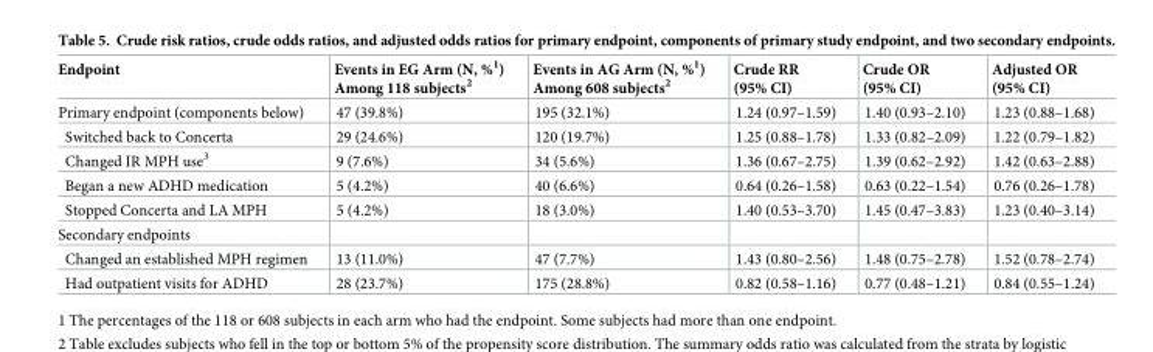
<table><thead><tr><td>Endpoint</td><td>Events in EG Arm (N, %<sup>1</sup>) Among 118 subjects<sup>2</sup></td><td>Events in AG Arm (N, %<sup>1</sup>) Among 608 subjects<sup>2</sup></td><td>Crude RR (95% CI)</td><td>Crude OR (95% CI)</td><td>Adjusted OR (95% CI)</td></tr></thead><tbody><tr><td>Primary endpoint (components below)</td><td>47 (39.8%)</td><td>195 (32.1%)</td><td>1.24 (0.97–1.59)</td><td>1.40 (0.93–2.10)</td><td>1.23 (0.88–1.68)</td></tr><tr><td>Switched back to Concerta</td><td>29 (24.6%)</td><td>120 (19.7%)</td><td>1.25 (0.88–1.78)</td><td>1.33 (0.82–2.09)</td><td>1.22 (0.79–1.82)</td></tr><tr><td>Changed IR MPH use<sup>3</sup></td><td>9 (7.6%)</td><td>34 (5.6%)</td><td>1.36 (0.67–2.75)</td><td>1.39 (0.62–2.92)</td><td>1.42 (0.63–2.88)</td></tr><tr><td>Began a new ADHD medication</td><td>5 (4.2%)</td><td>40 (6.6%)</td><td>0.64 (0.26–1.58)</td><td>0.63 (0.22–1.54)</td><td>0.76 (0.26–1.78)</td></tr><tr><td>Stopped Concerta and LA MPH</td><td>5 (4.2%)</td><td>18 (3.0%)</td><td>1.40 (0.53–3.70)</td><td>1.45 (0.47–3.83)</td><td>1.23 (0.40–3.14)</td></tr><tr><td colspan="6">Secondary endpoints</td></tr><tr><td>Changed an established MPH regimen</td><td>13 (11.0%)</td><td>47 (7.7%)</td><td>1.43 (0.80–2.56)</td><td>1.48 (0.75–2.78)</td><td>1.52 (0.78–2.74)</td></tr><tr><td>Had outpatient visits for ADHD</td><td>28 (23.7%)</td><td>175 (28.8%)</td><td>0.82 (0.58–1.16)</td><td>0.77 (0.48–1.21)</td><td>0.84 (0.55–1.24)</td></tr></tbody></table>